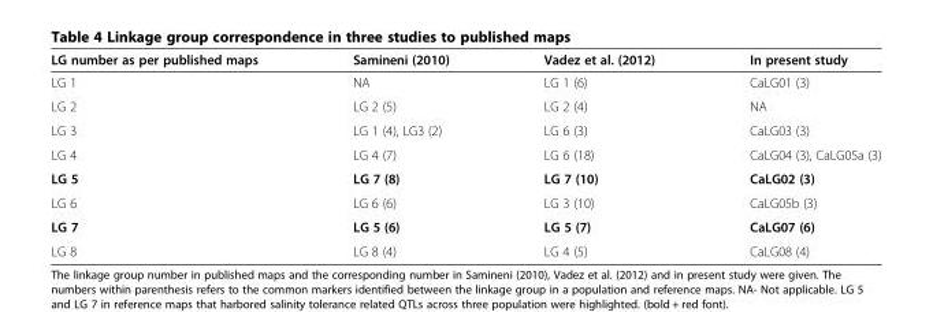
<table><thead><tr><td>LG number as per published maps</td><td>Samineni (2010)</td><td>Vadez et al. (2012)</td><td>In present study</td></tr></thead><tbody><tr><td>LG 1</td><td>NA</td><td>LG 1 (6)</td><td>CaLG01 (3)</td></tr><tr><td>LG 2</td><td>LG 2 (5)</td><td>LG 2 (4)</td><td>NA</td></tr><tr><td>LG 3</td><td>LG 1 (4), LG3 (2)</td><td>LG 6 (3)</td><td>CaLG03 (3)</td></tr><tr><td>LG 4</td><td>LG 4 (7)</td><td>LG 6 (18)</td><td>CaLG04 (3), CaLG05a (3)</td></tr><tr><td>LG 5</td><td>LG 7 (8)</td><td>LG 7 (10)</td><td>CaLG02 (3)</td></tr><tr><td>LG 6</td><td>LG 6 (6)</td><td>LG 3 (10)</td><td>CaLG05b (3)</td></tr><tr><td>LG 7</td><td>LG 5 (6)</td><td>LG 5 (7)</td><td>CaLG07 (6)</td></tr><tr><td>LG 8</td><td>LG 8 (4)</td><td>LG 4 (5)</td><td>CaLG08 (4)</td></tr></tbody></table>